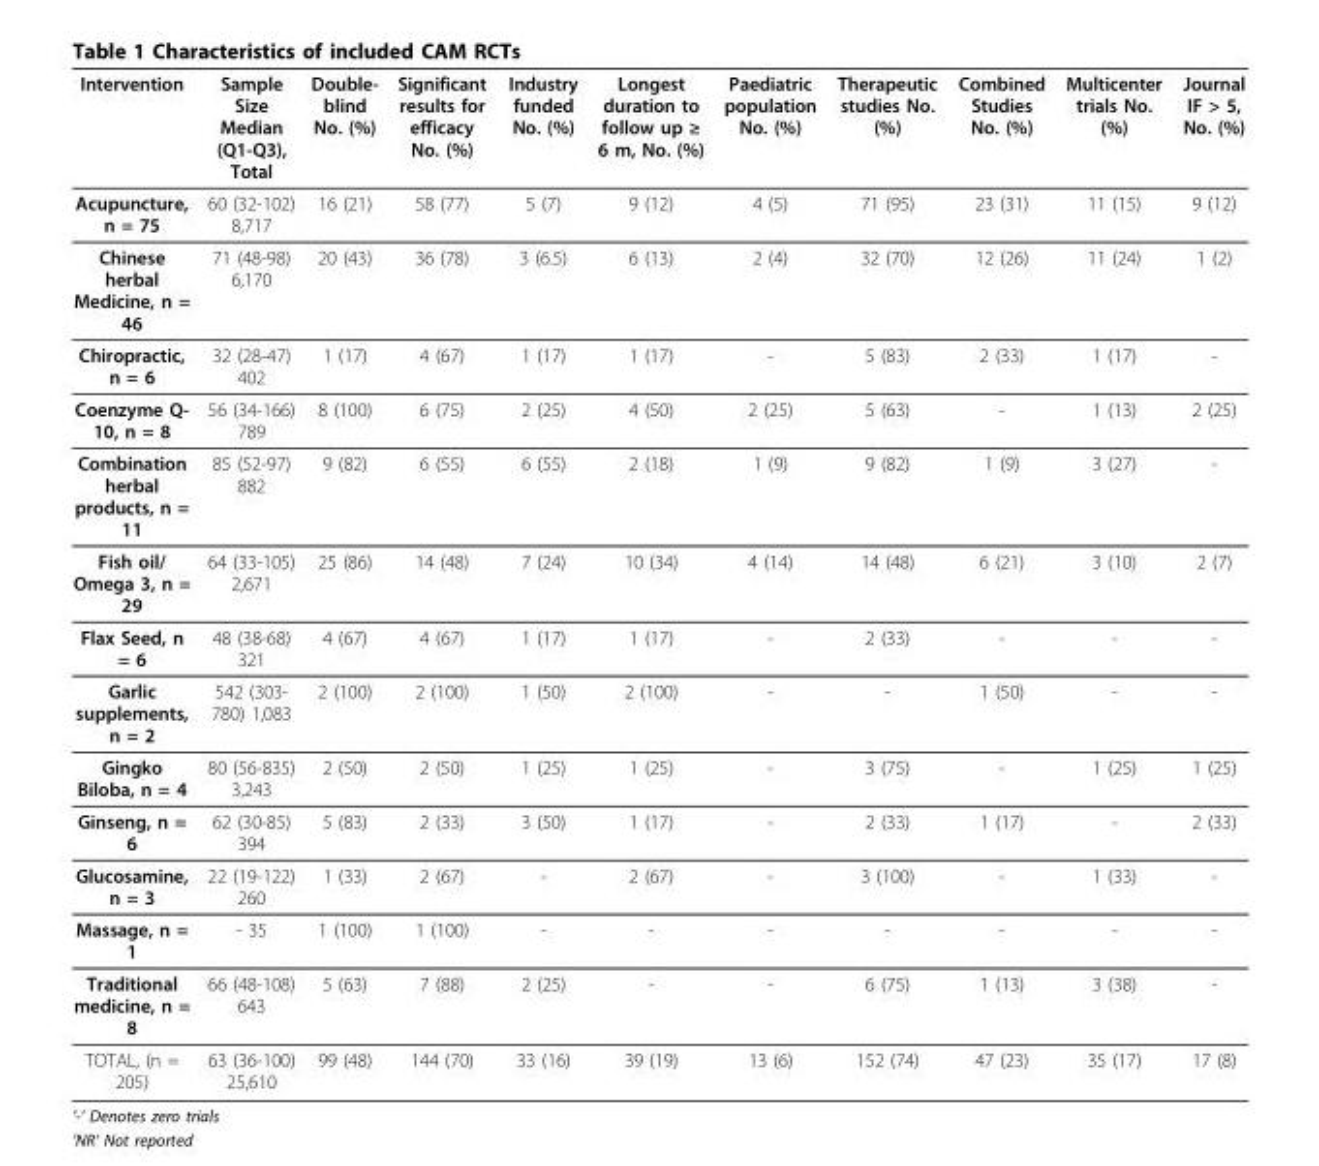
<table><thead><tr><td>Intervention</td><td>Sample Size Median (Q1-Q3), Total</td><td>Double- blind No. (%)</td><td>Significant results for efficacy No. (%)</td><td>Industry funded No. (%)</td><td>Longest duration to follow up ≥ 6 m, No. (%)</td><td>Paediatric population No. (%)</td><td>Therapeutic studies No. (%)</td><td>Combined Studies No. (%)</td><td>Multicenter trials No. (%)</td><td>Journal IF &gt; 5, No. (%)</td></tr></thead><tbody><tr><td>Acupuncture, n = 75</td><td>60 (32-102) 8,717</td><td>16 (21)</td><td>58 (77)</td><td>5 (7)</td><td>9 (12)</td><td>4 (5)</td><td>71 (95)</td><td>23 (31)</td><td>11 (15)</td><td>9 (12)</td></tr><tr><td>Chinese herbal Medicine, n = 46</td><td>71 (48-98) 6,170</td><td>20 (43)</td><td>36 (78)</td><td>3 (6.5)</td><td>6 (13)</td><td>2 (4)</td><td>32 (70)</td><td>12 (26)</td><td>11 (24)</td><td>1 (2)</td></tr><tr><td>Chiropractic, n = 6</td><td>32 (28-47) 402</td><td>1 (17)</td><td>4 (67)</td><td>1 (17)</td><td>1 (17)</td><td>-</td><td>5 (83)</td><td>2 (33)</td><td>1 (17)</td><td>-</td></tr><tr><td>Coenzyme Q- 10, n = 8</td><td>56 (34-166) 789</td><td>8 (100)</td><td>6 (75)</td><td>2 (25)</td><td>4 (50)</td><td>2 (25)</td><td>5 (63)</td><td>-</td><td>1 (13)</td><td>2 (25)</td></tr><tr><td>Combination herbal products, n = 11</td><td>85 (52-97) 882</td><td>9 (82)</td><td>6 (55)</td><td>6 (55)</td><td>2 (18)</td><td>1 (9)</td><td>9 (82)</td><td>1 (9)</td><td>3 (27)</td><td>-</td></tr><tr><td>Fish oil/ Omega 3, n = 29</td><td>64 (33-105) 2,671</td><td>25 (86)</td><td>14 (48)</td><td>7 (24)</td><td>10 (34)</td><td>4 (14)</td><td>14 (48)</td><td>6 (21)</td><td>3 (10)</td><td>2 (7)</td></tr><tr><td>Flax Seed, n = 6</td><td>48 (38-68) 321</td><td>4 (67)</td><td>4 (67)</td><td>1 (17)</td><td>1 (17)</td><td>-</td><td>2 (33)</td><td>-</td><td>-</td><td>-</td></tr><tr><td>Garlic supplements, n = 2</td><td>542 (303- 780) 1,083</td><td>2 (100)</td><td>2 (100)</td><td>1 (50)</td><td>2 (100)</td><td>-</td><td>-</td><td>1 (50)</td><td>-</td><td>-</td></tr><tr><td>Gingko Biloba, n = 4</td><td>80 (56-835) 3,243</td><td>2 (50)</td><td>2 (50)</td><td>1 (25)</td><td>1 (25)</td><td>-</td><td>3 (75)</td><td>-</td><td>1 (25)</td><td>1 (25)</td></tr><tr><td>Ginseng, n = 6</td><td>62 (30-85) 394</td><td>5 (83)</td><td>2 (33)</td><td>3 (50)</td><td>1 (17)</td><td>-</td><td>2 (33)</td><td>1 (17)</td><td>-</td><td>2 (33)</td></tr><tr><td>Glucosamine, n = 3</td><td>22 (19-122) 260</td><td>1 (33)</td><td>2 (67)</td><td>-</td><td>2 (67)</td><td>-</td><td>3 (100)</td><td>-</td><td>1 (33)</td><td>-</td></tr><tr><td>Massage, n = 1</td><td>- 35</td><td>1 (100)</td><td>1 (100)</td><td>-</td><td>-</td><td>-</td><td>-</td><td>-</td><td>-</td><td>-</td></tr><tr><td>Traditional medicine, n = 8</td><td>66 (48-108) 643</td><td>5 (63)</td><td>7 (88)</td><td>2 (25)</td><td>-</td><td>-</td><td>6 (75)</td><td>1 (13)</td><td>3 (38)</td><td>-</td></tr><tr><td>TOTAL, (n = 205)</td><td>63 (36-100) 25,610</td><td>99 (48)</td><td>144 (70)</td><td>33 (16)</td><td>39 (19)</td><td>13 (6)</td><td>152 (74)</td><td>47 (23)</td><td>35 (17)</td><td>17 (8)</td></tr></tbody></table>